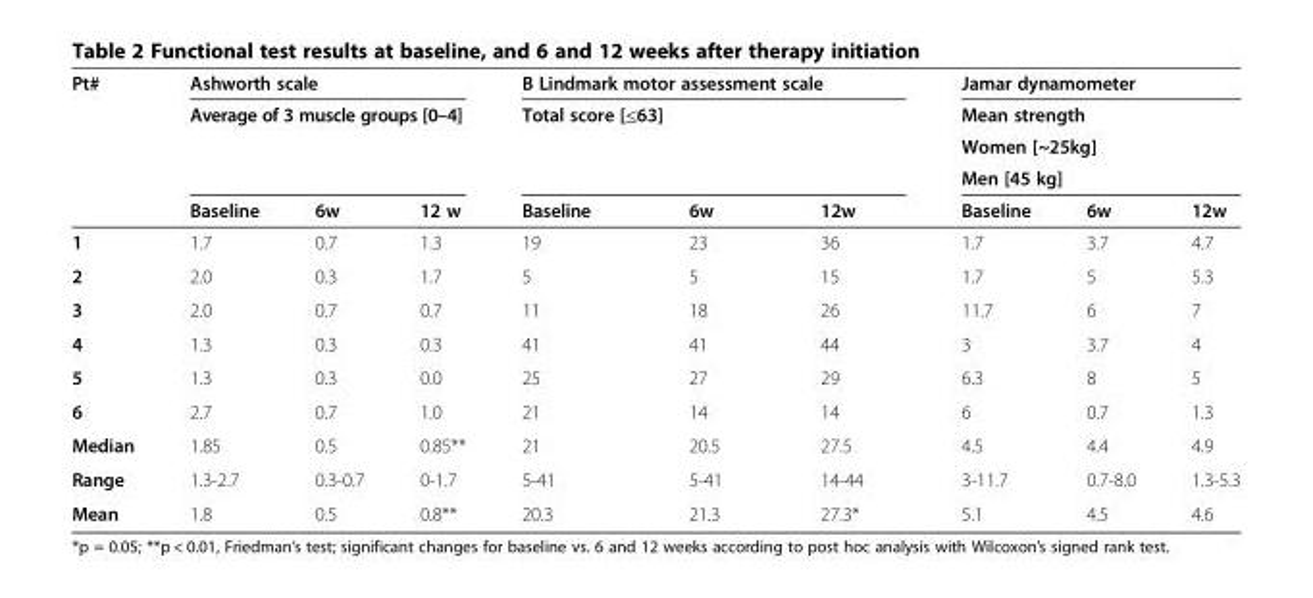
<table><thead><tr><td rowspan="5">Pt#</td><td rowspan="4" colspan="3">Ashworth scale Average of 3 muscle groups [0–4]</td><td rowspan="4" colspan="3">B Lindmark motor assessment scale Total score [≤63]</td><td rowspan="4" colspan="3">Jamar dynamometer Mean strength Women [~25kg] Men [45 kg]</td></tr><tr></tr><tr></tr><tr></tr><tr><td>Baseline</td><td>6w</td><td>12 w</td><td>Baseline</td><td>6w</td><td>12w</td><td>Baseline</td><td>6w</td><td>12w</td></tr></thead><tbody><tr><td>1</td><td>1.7</td><td>0.7</td><td>1.3</td><td>19</td><td>23</td><td>36</td><td>1.7</td><td>3.7</td><td>4.7</td></tr><tr><td>2</td><td>2.0</td><td>0.3</td><td>1.7</td><td>5</td><td>5</td><td>15</td><td>1.7</td><td>5</td><td>5.3</td></tr><tr><td>3</td><td>2.0</td><td>0.7</td><td>0.7</td><td>11</td><td>18</td><td>26</td><td>11.7</td><td>6</td><td>7</td></tr><tr><td>4</td><td>1.3</td><td>0.3</td><td>0.3</td><td>41</td><td>41</td><td>44</td><td>3</td><td>3.7</td><td>4</td></tr><tr><td>5</td><td>1.3</td><td>0.3</td><td>0.0</td><td>25</td><td>27</td><td>29</td><td>6.3</td><td>8</td><td>5</td></tr><tr><td>6</td><td>2.7</td><td>0.7</td><td>1.0</td><td>21</td><td>14</td><td>14</td><td>6</td><td>0.7</td><td>1.3</td></tr><tr><td>Median</td><td>1.85</td><td>0.5</td><td>0.85**</td><td>21</td><td>20.5</td><td>27.5</td><td>4.5</td><td>4.4</td><td>4.9</td></tr><tr><td>Range</td><td>1.3-2.7</td><td>0.3-0.7</td><td>0-1.7</td><td>5-41</td><td>5-41</td><td>14-44</td><td>3-11.7</td><td>0.7-8.0</td><td>1.3-5.3</td></tr><tr><td>Mean</td><td>1.8</td><td>0.5</td><td>0.8**</td><td>20.3</td><td>21.3</td><td>27.3*</td><td>5.1</td><td>4.5</td><td>4.6</td></tr></tbody></table>